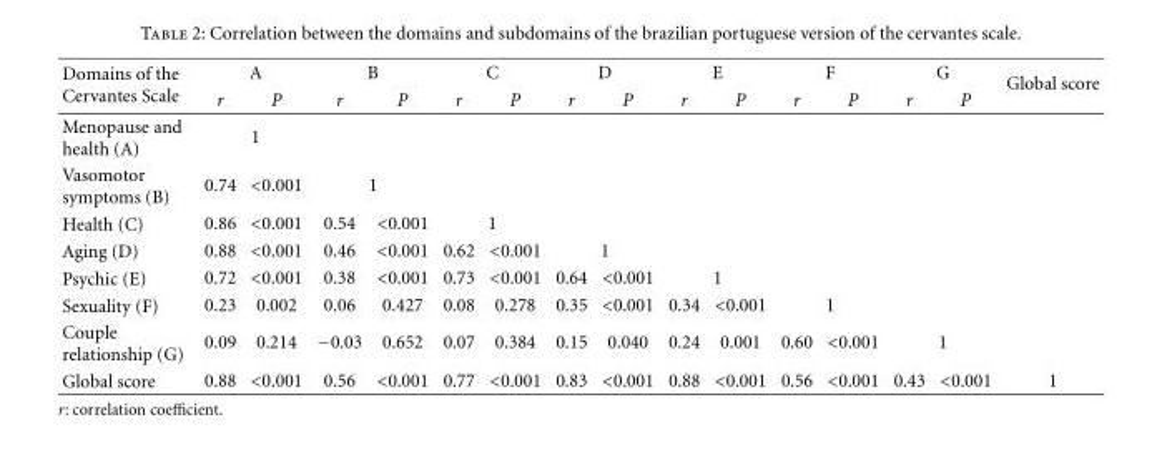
<table><thead><tr><td rowspan="2">Domains of the Cervantes Scale</td><td colspan="2">A</td><td colspan="2">B</td><td colspan="2">C</td><td colspan="2">D</td><td colspan="2">E</td><td colspan="2">F</td><td colspan="2">G</td><td rowspan="2">Global score</td></tr><tr><td>r</td><td>P</td><td>r</td><td>P</td><td>r</td><td>P</td><td>r</td><td>P</td><td>r</td><td>P</td><td>r</td><td>P</td><td>r</td><td>P</td></tr></thead><tbody><tr><td>Menopause and health (A)</td><td colspan="2">1</td><td></td><td></td><td></td><td></td><td></td><td></td><td></td><td></td><td></td><td></td><td></td><td></td><td></td></tr><tr><td>Vasomotor symptoms (B)</td><td>0.74</td><td>&lt;0.001</td><td colspan="2">1</td><td></td><td></td><td></td><td></td><td></td><td></td><td></td><td></td><td></td><td></td><td></td></tr><tr><td>Health (C)</td><td>0.86</td><td>&lt;0.001</td><td>0.54</td><td>&lt;0.001</td><td colspan="2">1</td><td></td><td></td><td></td><td></td><td></td><td></td><td></td><td></td><td></td></tr><tr><td>Aging (D)</td><td>0.88</td><td>&lt;0.001</td><td>0.46</td><td>&lt;0.001</td><td>0.62</td><td>&lt;0.001</td><td colspan="2">1</td><td></td><td></td><td></td><td></td><td></td><td></td><td></td></tr><tr><td>Psychic (E)</td><td>0.72</td><td>&lt;0.001</td><td>0.38</td><td>&lt;0.001</td><td>0.73</td><td>&lt;0.001</td><td>0.64</td><td>&lt;0.001</td><td colspan="2">1</td><td></td><td></td><td></td><td></td><td></td></tr><tr><td>Sexuality (F)</td><td>0.23</td><td>0.002</td><td>0.06</td><td>0.427</td><td>0.08</td><td>0.278</td><td>0.35</td><td>&lt;0.001</td><td>0.34</td><td>&lt;0.001</td><td colspan="2">1</td><td></td><td></td><td></td></tr><tr><td>Couple relationship (G)</td><td>0.09</td><td>0.214</td><td>−0.03</td><td>0.652</td><td>0.07</td><td>0.384</td><td>0.15</td><td>0.040</td><td>0.24</td><td>0.001</td><td>0.60</td><td>&lt;0.001</td><td colspan="2">1</td><td></td></tr><tr><td>Global score</td><td>0.88</td><td>&lt;0.001</td><td>0.56</td><td>&lt;0.001</td><td>0.77</td><td>&lt;0.001</td><td>0.83</td><td>&lt;0.001</td><td>0.88</td><td>&lt;0.001</td><td>0.56</td><td>&lt;0.001</td><td>0.43</td><td>&lt;0.001</td><td>1</td></tr></tbody></table>